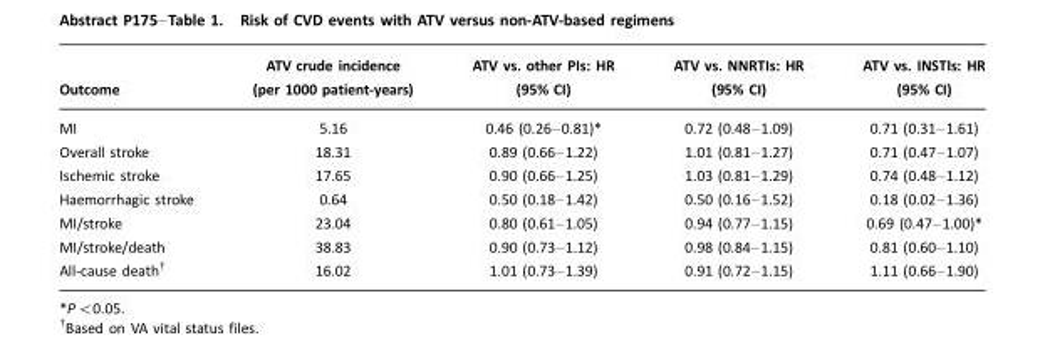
<table><thead><tr><td>Outcome</td><td>ATV crude incidence (per 1000 patient-years)</td><td>ATV vs. other PIs: HR (95% CI)</td><td>ATV vs. NNRTIs: HR (95% CI)</td><td>ATV vs. INSTIs: HR (95% CI)</td></tr></thead><tbody><tr><td>MI</td><td>5.16</td><td>0.46 (0.26–0.81)*</td><td>0.72 (0.48–1.09)</td><td>0.71 (0.31–1.61)</td></tr><tr><td>Overall stroke</td><td>18.31</td><td>0.89 (0.66–1.22)</td><td>1.01 (0.81–1.27)</td><td>0.71 (0.47–1.07)</td></tr><tr><td>Ischemic stroke</td><td>17.65</td><td>0.90 (0.66–1.25)</td><td>1.03 (0.81–1.29)</td><td>0.74 (0.48–1.12)</td></tr><tr><td>Haemorrhagic stroke</td><td>0.64</td><td>0.50 (0.18–1.42)</td><td>0.50 (0.16–1.52)</td><td>0.18 (0.02–1.36)</td></tr><tr><td>MI/stroke</td><td>23.04</td><td>0.80 (0.61–1.05)</td><td>0.94 (0.77–1.15)</td><td>0.69 (0.47–1.00)*</td></tr><tr><td>MI/stroke/death</td><td>38.83</td><td>0.90 (0.73–1.12)</td><td>0.98 (0.84–1.15)</td><td>0.81 (0.60–1.10)</td></tr><tr><td>All-cause death†</td><td>16.02</td><td>1.01 (0.73–1.39)</td><td>0.91 (0.72–1.15)</td><td>1.11 (0.66–1.90)</td></tr></tbody></table>